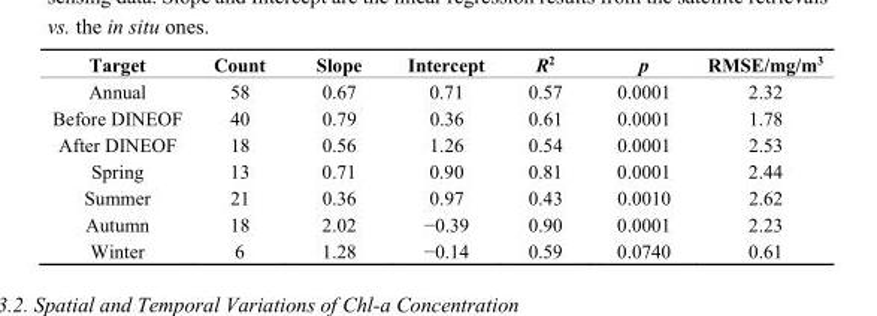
<table><thead><tr><td>Target</td><td>Count</td><td>Slope</td><td>Intercept</td><td>R<sup>2</sup></td><td>p</td><td>RMSE/mg/m<sup>3</sup></td></tr></thead><tbody><tr><td>Annual</td><td>58</td><td>0.67</td><td>0.71</td><td>0.57</td><td>0.0001</td><td>2.32</td></tr><tr><td>Before DINEOF</td><td>40</td><td>0.79</td><td>0.36</td><td>0.61</td><td>0.0001</td><td>1.78</td></tr><tr><td>After DINEOF</td><td>18</td><td>0.56</td><td>1.26</td><td>0.54</td><td>0.0001</td><td>2.53</td></tr><tr><td>Spring</td><td>13</td><td>0.71</td><td>0.90</td><td>0.81</td><td>0.0001</td><td>2.44</td></tr><tr><td>Summer</td><td>21</td><td>0.36</td><td>0.97</td><td>0.43</td><td>0.0010</td><td>2.62</td></tr><tr><td>Autumn</td><td>18</td><td>2.02</td><td>−0.39</td><td>0.90</td><td>0.0001</td><td>2.23</td></tr><tr><td>Winter</td><td>6</td><td>1.28</td><td>−0.14</td><td>0.59</td><td>0.0740</td><td>0.61</td></tr></tbody></table>